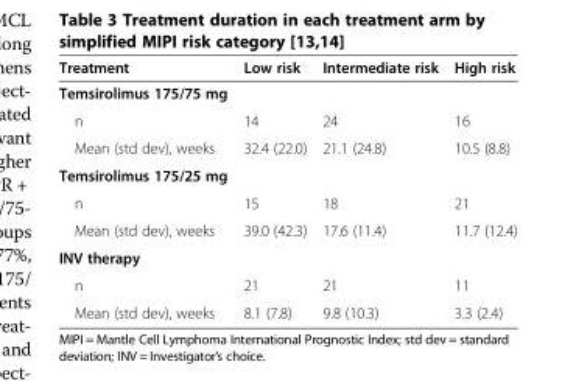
<table><thead><tr><td>Treatment</td><td>Low risk</td><td>Intermediate risk</td><td>High risk</td></tr></thead><tbody><tr><td colspan="4">Temsirolimus 175/75 mg</td></tr><tr><td>n</td><td>14</td><td>24</td><td>16</td></tr><tr><td>Mean (std dev), weeks</td><td>32.4 (22.0)</td><td>21.1 (24.8)</td><td>10.5 (8.8)</td></tr><tr><td colspan="4">Temsirolimus 175/25 mg</td></tr><tr><td>n</td><td>15</td><td>18</td><td>21</td></tr><tr><td>Mean (std dev), weeks</td><td>39.0 (42.3)</td><td>17.6 (11.4)</td><td>11.7 (12.4)</td></tr><tr><td colspan="4">INV therapy</td></tr><tr><td>n</td><td>21</td><td>21</td><td>11</td></tr><tr><td>Mean (std dev), weeks</td><td>8.1 (7.8)</td><td>9.8 (10.3)</td><td>3.3 (2.4)</td></tr></tbody></table>